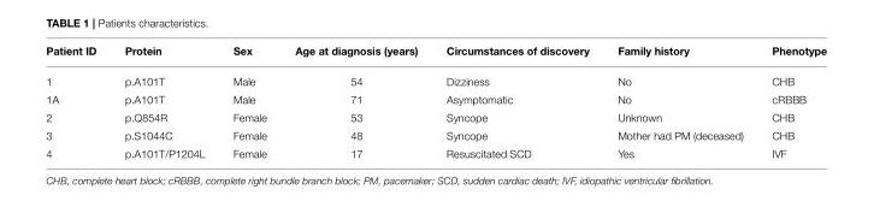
<table><thead><tr><td>Patient ID</td><td>Protein</td><td>Sex</td><td>Age at diagnosis (years)</td><td>Circumstances of discovery</td><td>Family history</td><td>Phenotype</td></tr></thead><tbody><tr><td>1</td><td>p.A101T</td><td>Male</td><td>54</td><td>Dizziness</td><td>No</td><td>CHB</td></tr><tr><td>1A</td><td>p.A101T</td><td>Male</td><td>71</td><td>Asymptomatic</td><td>No</td><td>cRBBB</td></tr><tr><td>2</td><td>p.Q854R</td><td>Female</td><td>53</td><td>Syncope</td><td>Unknown</td><td>CHB</td></tr><tr><td>3</td><td>p.S1044C</td><td>Female</td><td>48</td><td>Syncope</td><td>Mother had PM (deceased)</td><td>CHB</td></tr><tr><td>4</td><td>p.A101T/P1204L</td><td>Female</td><td>17</td><td>Resuscitated SCD</td><td>Yes</td><td>IVF</td></tr></tbody></table>